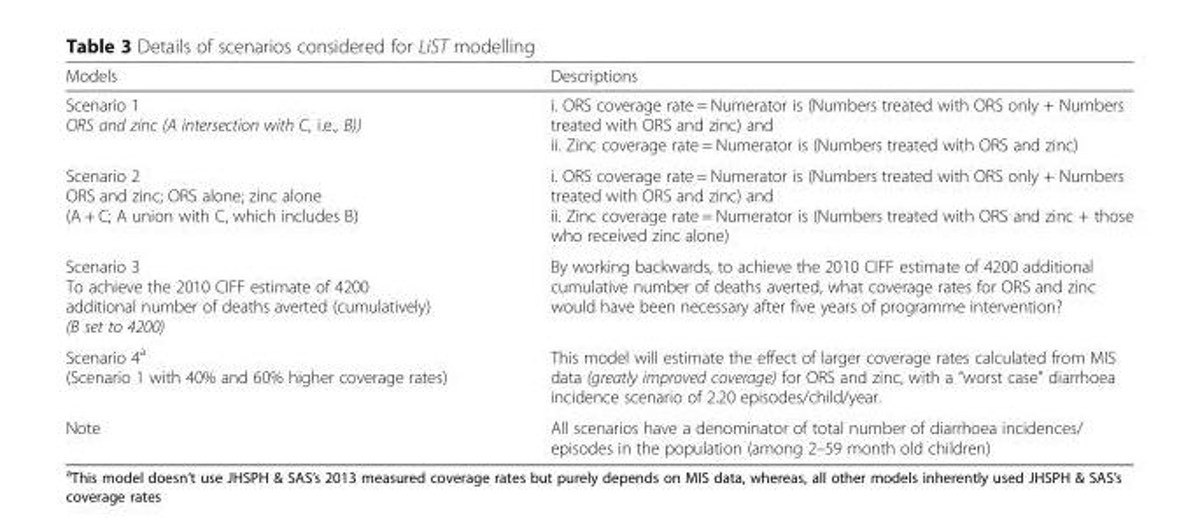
<table><thead><tr><td>Models</td><td>Descriptions</td></tr></thead><tbody><tr><td>Scenario 1 ORS and zinc (A intersection with C, i.e., B))</td><td>i. ORS coverage rate = Numerator is (Numbers treated with ORS only + Numbers treated with ORS and zinc) and ii. Zinc coverage rate = Numerator is (Numbers treated with ORS and zinc)</td></tr><tr><td>Scenario 2 ORS and zinc; ORS alone; zinc alone (A + C; A union with C, which includes B)</td><td>i. ORS coverage rate = Numerator is (Numbers treated with ORS only + Numbers treated with ORS and zinc) and ii. Zinc coverage rate = Numerator is (Numbers treated with ORS and zinc + those who received zinc alone)</td></tr><tr><td>Scenario 3 To achieve the 2010 CIFF estimate of 4200 additional number of deaths averted (cumulatively) (B set to 4200)</td><td>By working backwards, to achieve the 2010 CIFF estimate of 4200 additional cumulative number of deaths averted, what coverage rates for ORS and zinc would have been necessary after five years of programme intervention?</td></tr><tr><td>Scenario 4<sup>a</sup> (Scenario 1 with 40% and 60% higher coverage rates)</td><td>This model will estimate the effect of larger coverage rates calculated from MIS data (greatly improved coverage) for ORS and zinc, with a “worst case” diarrhoea incidence scenario of 2.20 episodes/child/year.</td></tr><tr><td>Note</td><td>All scenarios have a denominator of total number of diarrhoea incidences/ episodes in the population (among 2–59 month old children)</td></tr></tbody></table>